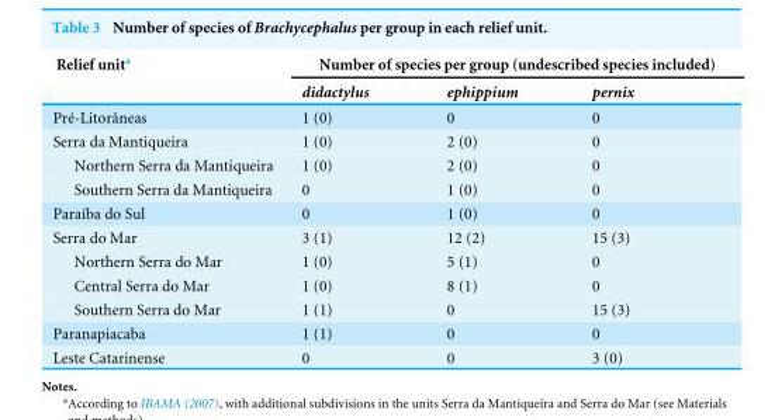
<table><thead><tr><td rowspan="2">Relief unit<sup>a</sup></td><td colspan="3">Number of species per group (undescribed species included)</td></tr><tr><td>didactylus</td><td>ephippium</td><td>pernix</td></tr></thead><tbody><tr><td>Pré-Litorâneas</td><td>1 (0)</td><td>0</td><td>0</td></tr><tr><td>Serra da Mantiqueira</td><td>1 (0)</td><td>2 (0)</td><td>0</td></tr><tr><td>Northern Serra da Mantiqueira</td><td>1 (0)</td><td>2 (0)</td><td>0</td></tr><tr><td>Southern Serra da Mantiqueira</td><td>0</td><td>1 (0)</td><td>0</td></tr><tr><td>Paraíba do Sul</td><td>0</td><td>1 (0)</td><td>0</td></tr><tr><td>Serra do Mar</td><td>3 (1)</td><td>12 (2)</td><td>15 (3)</td></tr><tr><td>Northern Serra do Mar</td><td>1 (0)</td><td>5 (1)</td><td>0</td></tr><tr><td>Central Serra do Mar</td><td>1 (0)</td><td>8 (1)</td><td>0</td></tr><tr><td>Southern Serra do Mar</td><td>1 (1)</td><td>0</td><td>15 (3)</td></tr><tr><td>Paranapiacaba</td><td>1 (1)</td><td>0</td><td>0</td></tr><tr><td>Leste Catarinense</td><td>0</td><td>0</td><td>3 (0)</td></tr></tbody></table>